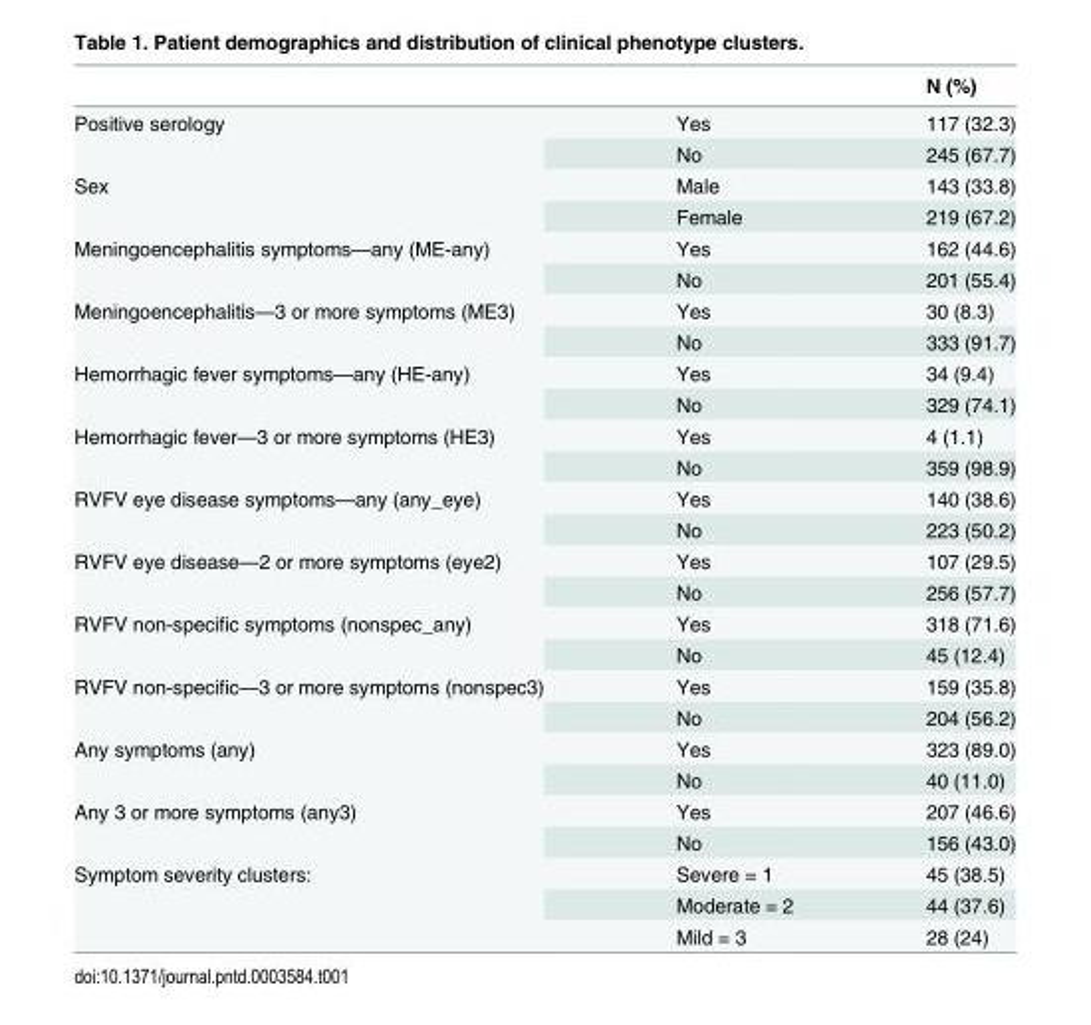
<table><thead><tr><td></td><td></td><td>N (%)</td></tr></thead><tbody><tr><td rowspan="2">Positive serology</td><td>Yes</td><td>117 (32.3)</td></tr><tr><td>No</td><td>245 (67.7)</td></tr><tr><td rowspan="2">Sex</td><td>Male</td><td>143 (33.8)</td></tr><tr><td>Female</td><td>219 (67.2)</td></tr><tr><td rowspan="2">Meningoencephalitis symptoms—any (ME-any)</td><td>Yes</td><td>162 (44.6)</td></tr><tr><td>No</td><td>201 (55.4)</td></tr><tr><td rowspan="2">Meningoencephalitis—3 or more symptoms (ME3)</td><td>Yes</td><td>30 (8.3)</td></tr><tr><td>No</td><td>333 (91.7)</td></tr><tr><td rowspan="2">Hemorrhagic fever symptoms—any (HE-any)</td><td>Yes</td><td>34 (9.4)</td></tr><tr><td>No</td><td>329 (74.1)</td></tr><tr><td rowspan="2">Hemorrhagic fever—3 or more symptoms (HE3)</td><td>Yes</td><td>4 (1.1)</td></tr><tr><td>No</td><td>359 (98.9)</td></tr><tr><td rowspan="2">RVFV eye disease symptoms—any (any_eye)</td><td>Yes</td><td>140 (38.6)</td></tr><tr><td>No</td><td>223 (50.2)</td></tr><tr><td rowspan="2">RVFV eye disease—2 or more symptoms (eye2)</td><td>Yes</td><td>107 (29.5)</td></tr><tr><td>No</td><td>256 (57.7)</td></tr><tr><td rowspan="2">RVFV non-specific symptoms (nonspec_any)</td><td>Yes</td><td>318 (71.6)</td></tr><tr><td>No</td><td>45 (12.4)</td></tr><tr><td rowspan="2">RVFV non-specific—3 or more symptoms (nonspec3)</td><td>Yes</td><td>159 (35.8)</td></tr><tr><td>No</td><td>204 (56.2)</td></tr><tr><td rowspan="2">Any symptoms (any)</td><td>Yes</td><td>323 (89.0)</td></tr><tr><td>No</td><td>40 (11.0)</td></tr><tr><td rowspan="2">Any 3 or more symptoms (any3)</td><td>Yes</td><td>207 (46.6)</td></tr><tr><td>No</td><td>156 (43.0)</td></tr><tr><td rowspan="3">Symptom severity clusters:</td><td>Severe = 1</td><td>45 (38.5)</td></tr><tr><td>Moderate = 2</td><td>44 (37.6)</td></tr><tr><td>Mild = 3</td><td>28 (24)</td></tr></tbody></table>